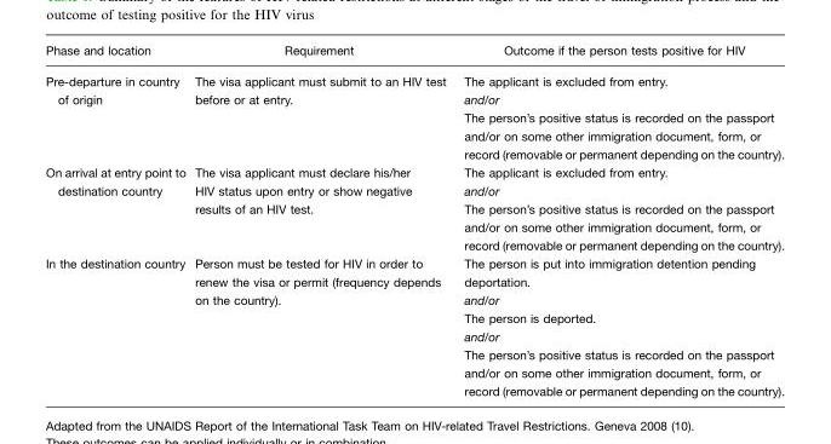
<table><thead><tr><td>Phase and location</td><td>Requirement</td><td>Outcome if the person tests positive for HIV</td></tr></thead><tbody><tr><td>Pre-departure in country of origin</td><td>The visa applicant must submit to an HIV test before or at entry.</td><td>The applicant is excluded from entry. and/or The person’s positive status is recorded on the passport and/or on some other immigration document, form, or record (removable or permanent depending on the country).</td></tr><tr><td>On arrival at entry point to destination country</td><td>The visa applicant must declare his/her HIV status upon entry or show negative results of an HIV test.</td><td>The applicant is excluded from entry. and/or The person’s positive status is recorded on the passport and/or on some other immigration document, form, or record (removable or permanent depending on the country).</td></tr><tr><td>In the destination country</td><td>Person must be tested for HIV in order to renew the visa or permit (frequency depends on the country).</td><td>The person is put into immigration detention pending deportation. and/or The person is deported. and/or The person’s positive status is recorded on the passport and/or on some other immigration document, form, or record (removable or permanent depending on the country).</td></tr></tbody></table>